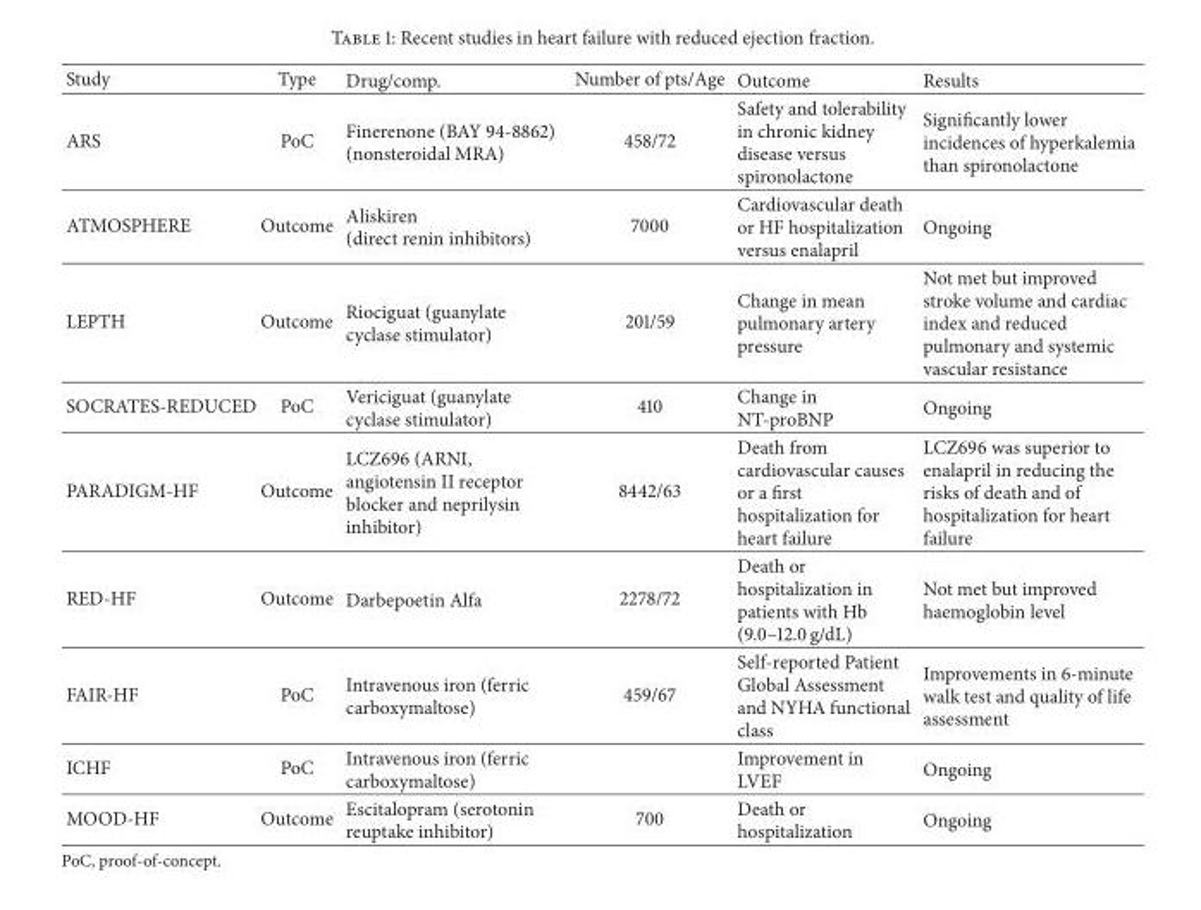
<table><thead><tr><td>Study</td><td>Type</td><td>Drug/comp.</td><td>Number of pts/Age</td><td>Outcome</td><td>Results</td></tr></thead><tbody><tr><td>ARS</td><td>PoC</td><td>Finerenone (BAY 94-8862) (nonsteroidal MRA)</td><td>458/72</td><td>Safety and tolerability in chronic kidney disease versus spironolactone</td><td>Significantly lower incidences of hyperkalemia than spironolactone</td></tr><tr><td>ATMOSPHERE</td><td>Outcome</td><td>Aliskiren (direct renin inhibitors)</td><td>7000</td><td>Cardiovascular death or HF hospitalization versus enalapril</td><td>Ongoing</td></tr><tr><td>LEPTH</td><td>Outcome</td><td>Riociguat (guanylate cyclase stimulator)</td><td>201/59</td><td>Change in mean pulmonary artery pressure</td><td>Not met but improved stroke volume and cardiac index and reduced pulmonary and systemic vascular resistance</td></tr><tr><td>SOCRATES-REDUCED</td><td>PoC</td><td>Vericiguat (guanylate cyclase stimulator)</td><td>410</td><td>Change in NT-proBNP</td><td>Ongoing</td></tr><tr><td>PARADIGM-HF</td><td>Outcome</td><td>LCZ696 (ARNI, angiotensin II receptor blocker and neprilysin inhibitor)</td><td>8442/63</td><td>Death from cardiovascular causes or a first hospitalization for heart failure</td><td>LCZ696 was superior to enalapril in reducing the risks of death and of hospitalization for heart failure</td></tr><tr><td>RED-HF</td><td>Outcome</td><td>Darbepoetin Alfa</td><td>2278/72</td><td>Death or hospitalization in patients with Hb (9.0–12.0 g/dL)</td><td>Not met but improved haemoglobin level</td></tr><tr><td>FAIR-HF</td><td>PoC</td><td>Intravenous iron (ferric carboxymaltose)</td><td>459/67</td><td>Self-reported Patient Global Assessment and NYHA functional class</td><td>Improvements in 6-minute walk test and quality of life assessment</td></tr><tr><td>ICHF</td><td>PoC</td><td>Intravenous iron (ferric carboxymaltose)</td><td></td><td>Improvement in LVEF</td><td>Ongoing</td></tr><tr><td>MOOD-HF</td><td>Outcome</td><td>Escitalopram (serotonin reuptake inhibitor)</td><td>700</td><td>Death or hospitalization</td><td>Ongoing</td></tr></tbody></table>